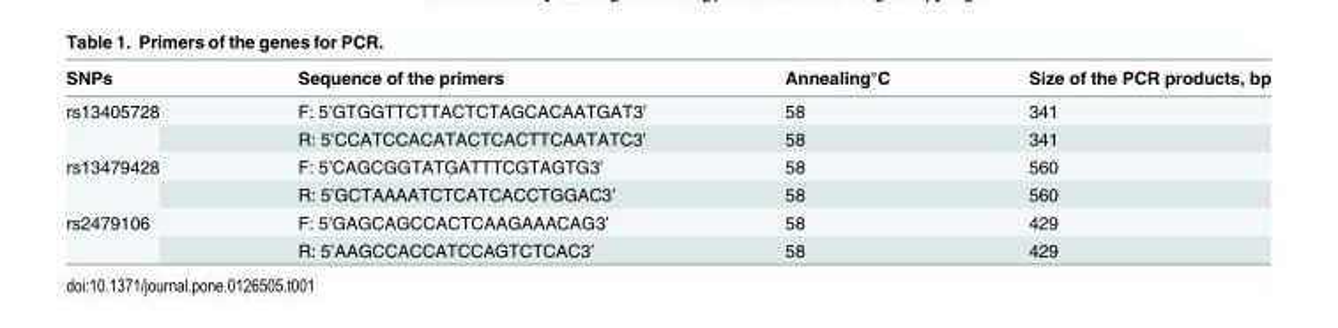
<table><thead><tr><td>SNPs</td><td>Sequence of the primers</td><td>Annealing°C</td><td>Size of the PCR products, bp</td></tr></thead><tbody><tr><td rowspan="2">rs13405728</td><td>F: 5’GTGGTTCTTACTCTAGCACAATGAT3’</td><td>58</td><td>341</td></tr><tr><td>R: 5’CCATCCACATACTCACTTCAATATC3’</td><td>58</td><td>341</td></tr><tr><td rowspan="2">rs13479428</td><td>F: 5’CAGCGGTATGATTTCGTAGTG3’</td><td>58</td><td>560</td></tr><tr><td>R: 5’GCTAAAATCTCATCACCTGGAC3’</td><td>58</td><td>560</td></tr><tr><td rowspan="2">rs2479106</td><td>F: 5’GAGCAGCCACTCAAGAAACAG3’</td><td>58</td><td>429</td></tr><tr><td>R: 5’AAGCCACCATCCAGTCTCAC3’</td><td>58</td><td>429</td></tr></tbody></table>